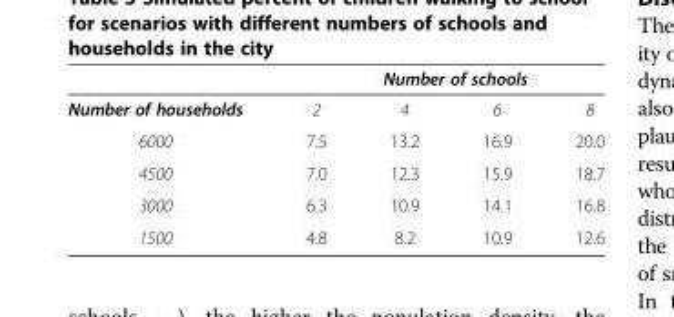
<table><thead><tr><td rowspan="2">Number of households</td><td colspan="4">Number of schools</td></tr><tr><td>2</td><td>4</td><td>6</td><td>8</td></tr></thead><tbody><tr><td>6000</td><td>7.5</td><td>13.2</td><td>16.9</td><td>20.0</td></tr><tr><td>4500</td><td>7.0</td><td>12.3</td><td>15.9</td><td>18.7</td></tr><tr><td>3000</td><td>6.3</td><td>10.9</td><td>14.1</td><td>16.8</td></tr><tr><td>1500</td><td>4.8</td><td>8.2</td><td>10.9</td><td>12.6</td></tr></tbody></table>